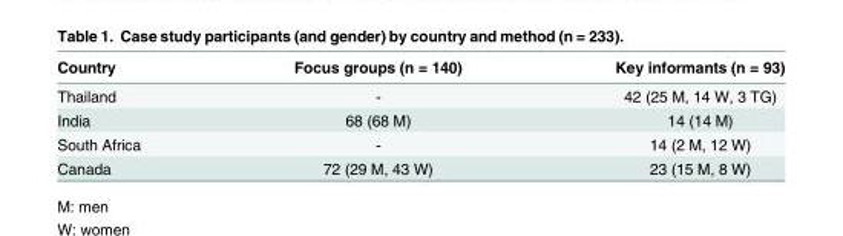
<table><thead><tr><td>Country</td><td>Focus groups (n = 140)</td><td>Key informants (n = 93)</td></tr></thead><tbody><tr><td>Thailand</td><td>-</td><td>42 (25 M, 14 W, 3 TG)</td></tr><tr><td>India</td><td>68 (68 M)</td><td>14 (14 M)</td></tr><tr><td>South Africa</td><td>-</td><td>14 (2 M, 12 W)</td></tr><tr><td>Canada</td><td>72 (29 M, 43 W)</td><td>23 (15 M, 8 W)</td></tr></tbody></table>